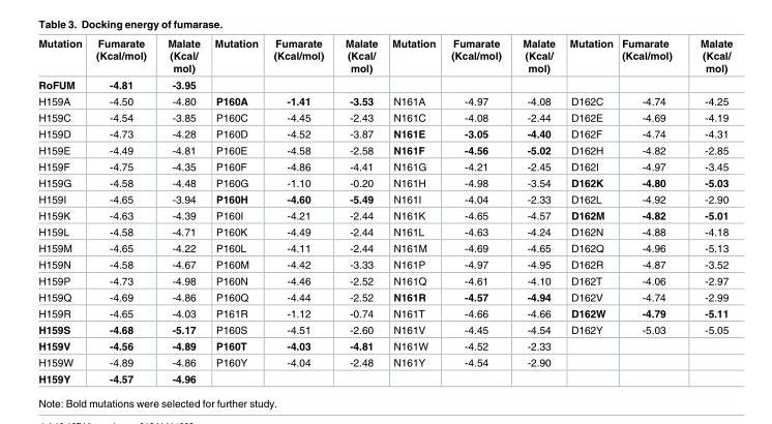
<table><thead><tr><td>Mutation</td><td>Fumarate (Kcal/mol)</td><td>Malate (Kcal/ mol)</td><td>Mutation</td><td>Fumarate (Kcal/mol)</td><td>Malate (Kcal/ mol)</td><td>Mutation</td><td>Fumarate (Kcal/mol)</td><td>Malate (Kcal/ mol)</td><td>Mutation</td><td>Fumarate (Kcal/mol)</td><td>Malate (Kcal/ mol)</td></tr></thead><tbody><tr><td>RoFUM</td><td>-4.81</td><td>-3.95</td><td></td><td></td><td></td><td></td><td></td><td></td><td></td><td></td><td></td></tr><tr><td>H159A</td><td>-4.50</td><td>-4.80</td><td>P160A</td><td>-1.41</td><td>-3.53</td><td>N161A</td><td>-4.97</td><td>-4.08</td><td>D162C</td><td>-4.74</td><td>-4.25</td></tr><tr><td>H159C</td><td>-4.54</td><td>-3.85</td><td>P160C</td><td>-4.45</td><td>-2.43</td><td>N161C</td><td>-4.08</td><td>-2.44</td><td>D162E</td><td>-4.69</td><td>-4.19</td></tr><tr><td>H159D</td><td>-4.73</td><td>-4.28</td><td>P160D</td><td>-4.52</td><td>-3.87</td><td>N161E</td><td>-3.05</td><td>-4.40</td><td>D162F</td><td>-4.74</td><td>-4.31</td></tr><tr><td>H159E</td><td>-4.49</td><td>-4.81</td><td>P160E</td><td>-4.58</td><td>-2.58</td><td>N161F</td><td>-4.56</td><td>-5.02</td><td>D162H</td><td>-4.82</td><td>-2.85</td></tr><tr><td>H159F</td><td>-4.75</td><td>-4.35</td><td>P160F</td><td>-4.86</td><td>-4.41</td><td>N161G</td><td>-4.21</td><td>-2.45</td><td>D162I</td><td>-4.97</td><td>-3.45</td></tr><tr><td>H159G</td><td>-4.58</td><td>-4.48</td><td>P160G</td><td>-1.10</td><td>-0.20</td><td>N161H</td><td>-4.98</td><td>-3.54</td><td>D162K</td><td>-4.80</td><td>-5.03</td></tr><tr><td>H159I</td><td>-4.65</td><td>-3.94</td><td>P160H</td><td>-4.60</td><td>-5.49</td><td>N161I</td><td>-4.04</td><td>-2.33</td><td>D162L</td><td>-4.92</td><td>-2.90</td></tr><tr><td>H159K</td><td>-4.63</td><td>-4.39</td><td>P160I</td><td>-4.21</td><td>-2.44</td><td>N161K</td><td>-4.65</td><td>-4.57</td><td>D162M</td><td>-4.82</td><td>-5.01</td></tr><tr><td>H159L</td><td>-4.58</td><td>-4.71</td><td>P160K</td><td>-4.49</td><td>-2.44</td><td>N161L</td><td>-4.63</td><td>-4.24</td><td>D162N</td><td>-4.88</td><td>-4.18</td></tr><tr><td>H159M</td><td>-4.65</td><td>-4.22</td><td>P160L</td><td>-4.11</td><td>-2.44</td><td>N161M</td><td>-4.69</td><td>-4.65</td><td>D162Q</td><td>-4.96</td><td>-5.13</td></tr><tr><td>H159N</td><td>-4.58</td><td>-4.67</td><td>P160M</td><td>-4.42</td><td>-3.33</td><td>N161P</td><td>-4.97</td><td>-4.95</td><td>D162R</td><td>-4.87</td><td>-3.52</td></tr><tr><td>H159P</td><td>-4.73</td><td>-4.98</td><td>P160N</td><td>-4.46</td><td>-2.52</td><td>N161Q</td><td>-4.61</td><td>-4.10</td><td>D162T</td><td>-4.06</td><td>-2.97</td></tr><tr><td>H159Q</td><td>-4.69</td><td>-4.86</td><td>P160Q</td><td>-4.44</td><td>-2.52</td><td>N161R</td><td>-4.57</td><td>-4.94</td><td>D162V</td><td>-4.74</td><td>-2.99</td></tr><tr><td>H159R</td><td>-4.65</td><td>-4.03</td><td>P161R</td><td>-1.12</td><td>-0.74</td><td>N161T</td><td>-4.66</td><td>-4.66</td><td>D162W</td><td>-4.79</td><td>-5.11</td></tr><tr><td>H159S</td><td>-4.68</td><td>-5.17</td><td>P160S</td><td>-4.51</td><td>-2.60</td><td>N161V</td><td>-4.45</td><td>-4.54</td><td>D162Y</td><td>-5.03</td><td>-5.05</td></tr><tr><td>H159V</td><td>-4.56</td><td>-4.89</td><td>P160T</td><td>-4.03</td><td>-4.81</td><td>N161W</td><td>-4.52</td><td>-2.33</td><td></td><td></td><td></td></tr><tr><td>H159W</td><td>-4.89</td><td>-4.86</td><td>P160Y</td><td>-4.04</td><td>-2.48</td><td>N161Y</td><td>-4.54</td><td>-2.90</td><td></td><td></td><td></td></tr><tr><td>H159Y</td><td>-4.57</td><td>-4.96</td><td></td><td></td><td></td><td></td><td></td><td></td><td></td><td></td><td></td></tr></tbody></table>